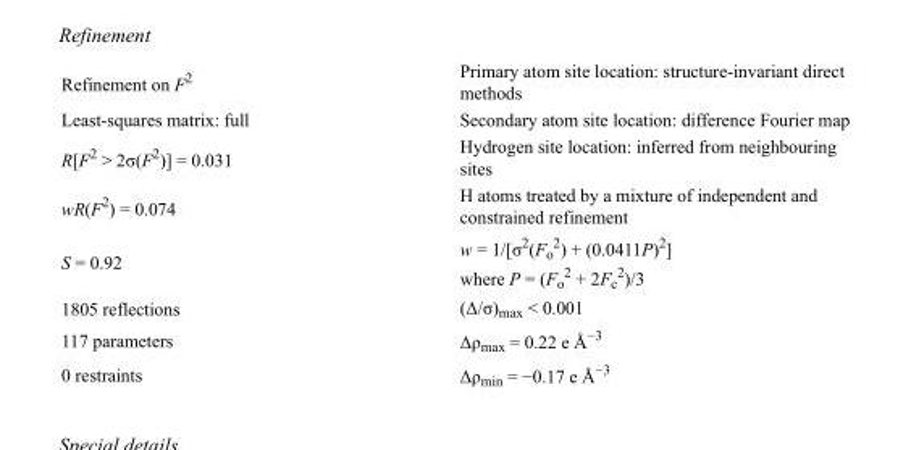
<table><tbody><tr><td>Refinement on F<sup>2</sup></td><td>Primary atom site location: structure-invariant direct methods</td></tr><tr><td>Least-squares matrix: full</td><td>Secondary atom site location: difference Fourier map</td></tr><tr><td>R[F<sup>2</sup> &gt; 2σ(F<sup>2</sup>)] = 0.031</td><td>Hydrogen site location: inferred from neighbouring sites</td></tr><tr><td>wR(F<sup>2</sup>) = 0.074</td><td>H atoms treated by a mixture of independent and constrained refinement</td></tr><tr><td>S = 0.92</td><td>w = 1/[σ<sup>2</sup>(F<sub>o</sub> <sup>2</sup>) + (0.0411P)<sup>2</sup>] where P = (F<sub>o</sub> <sup>2</sup> + 2F<sub>c</sub> <sup>2</sup>)/3</td></tr><tr><td>1805 reflections</td><td>(Δ/σ)<sub>max</sub> &lt; 0.001</td></tr><tr><td>117 parameters</td><td>Δρ<sub>max</sub> = 0.22 e Å<sup>−3</sup></td></tr><tr><td>0 restraints</td><td>Δρ<sub>min</sub> = −0.17 e Å<sup>−3</sup></td></tr></tbody></table>